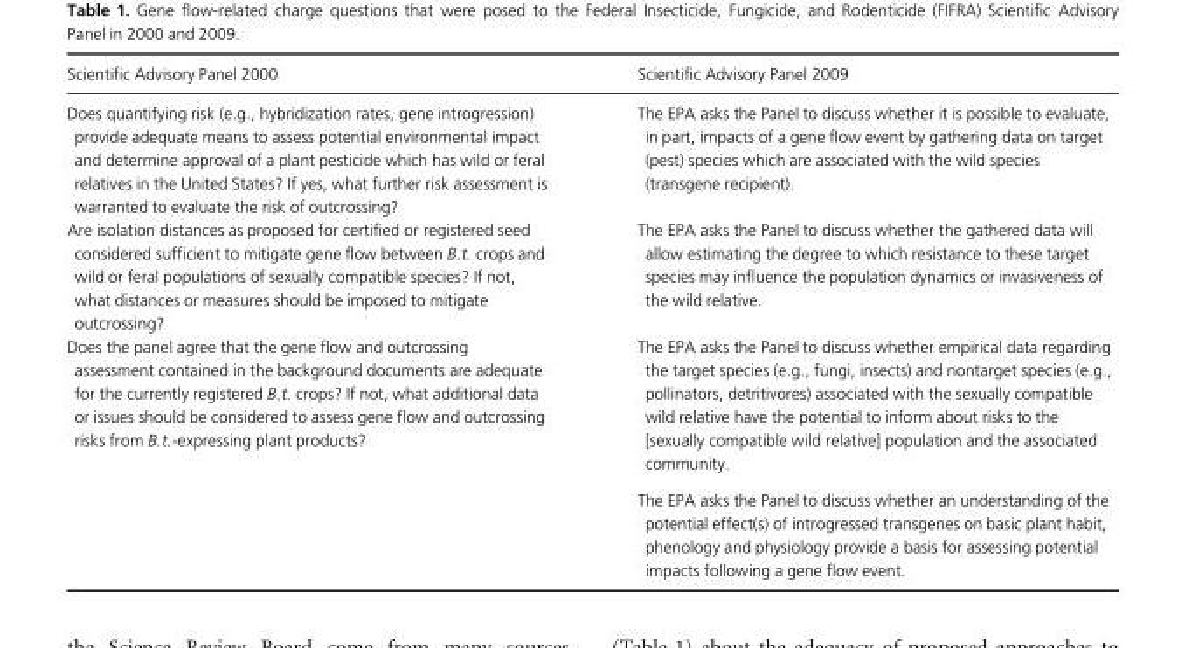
<table><thead><tr><td>Scientific Advisory Panel 2000</td><td>Scientific Advisory Panel 2009</td></tr></thead><tbody><tr><td>Does quantifying risk (e.g., hybridization rates, gene introgression) provide adequate means to assess potential environmental impact and determine approval of a plant pesticide which has wild or feral relatives in the United States? If yes, what further risk assessment is warranted to evaluate the risk of outcrossing?</td><td>The EPA asks the Panel to discuss whether it is possible to evaluate, in part, impacts of a gene flow event by gathering data on target (pest) species which are associated with the wild species (transgene recipient).</td></tr><tr><td>Are isolation distances as proposed for certified or registered seed considered sufficient to mitigate gene flow between B.t. crops and wild or feral populations of sexually compatible species? If not, what distances or measures should be imposed to mitigate outcrossing?</td><td>The EPA asks the Panel to discuss whether the gathered data will allow estimating the degree to which resistance to these target species may influence the population dynamics or invasiveness of the wild relative.</td></tr><tr><td rowspan="2">Does the panel agree that the gene flow and outcrossing assessment contained in the background documents are adequate for the currently registered B.t. crops? If not, what additional data or issues should be considered to assess gene flow and outcrossing risks from B.t.-expressing plant products?</td><td>The EPA asks the Panel to discuss whether empirical data regarding the target species (e.g., fungi, insects) and nontarget species (e.g., pollinators, detritivores) associated with the sexually compatible wild relative have the potential to inform about risks to the [sexually compatible wild relative] population and the associated community.</td></tr><tr><td>The EPA asks the Panel to discuss whether an understanding of the potential effect(s) of introgressed transgenes on basic plant habit, phenology and physiology provide a basis for assessing potential impacts following a gene flow event.</td></tr></tbody></table>